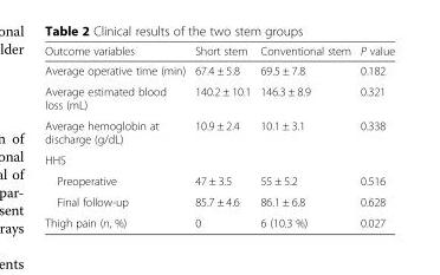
<table><thead><tr><td>Outcome variables</td><td>Short stem</td><td>Conventional stem</td><td>P value</td></tr></thead><tbody><tr><td>Average operative time (min)</td><td>67.4 ± 5.8</td><td>69.5 ± 7.8</td><td>0.182</td></tr><tr><td>Average estimated blood loss (mL)</td><td>140.2 ± 10.1</td><td>146.3 ± 8.9</td><td>0.321</td></tr><tr><td>Average hemoglobin at discharge (g/dL)</td><td>10.9 ± 2.4</td><td>10.1 ± 3.1</td><td>0.338</td></tr><tr><td colspan="4">HHS</td></tr><tr><td>Preoperative</td><td>47 ± 3.5</td><td>55 ± 5.2</td><td>0.516</td></tr><tr><td>Final follow-up</td><td>85.7 ± 4.6</td><td>86.1 ± 6.8</td><td>0.628</td></tr><tr><td>Thigh pain (n, %)</td><td>0</td><td>6 (10.3 %)</td><td>0.027</td></tr></tbody></table>